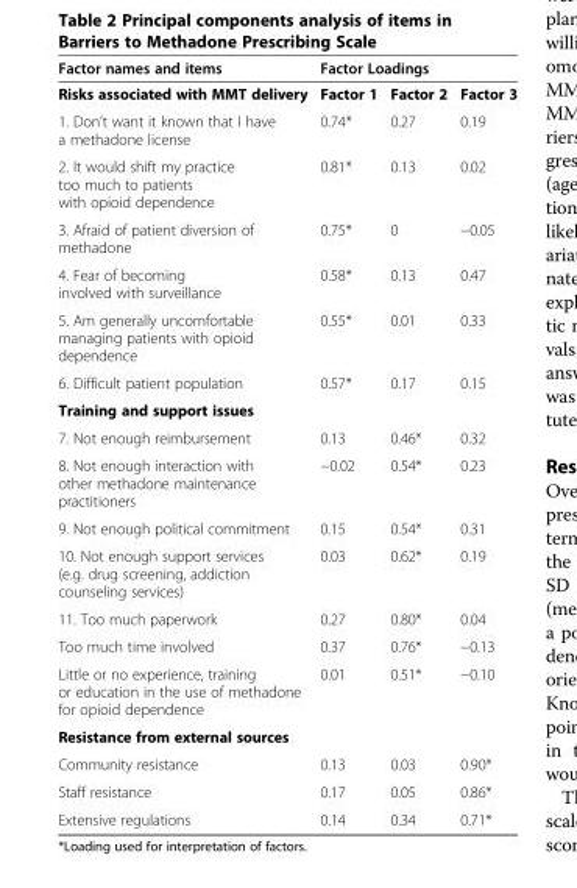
<table><thead><tr><td rowspan="2">Factor names and items Risks associated with MMT delivery</td><td colspan="3">Factor Loadings</td></tr><tr><td>Factor 1</td><td>Factor 2</td><td>Factor 3</td></tr></thead><tbody><tr><td>1. Don’t want it known that I have a methadone license</td><td>0.74*</td><td>0.27</td><td>0.19</td></tr><tr><td>2. It would shift my practice too much to patients with opioid dependence</td><td>0.81*</td><td>0.13</td><td>0.02</td></tr><tr><td>3. Afraid of patient diversion of methadone</td><td>0.75*</td><td>0</td><td>−0.05</td></tr><tr><td>4. Fear of becoming involved with surveillance</td><td>0.58*</td><td>0.13</td><td>0.47</td></tr><tr><td>5. Am generally uncomfortable managing patients with opioid dependence</td><td>0.55*</td><td>0.01</td><td>0.33</td></tr><tr><td>6. Difficult patient population</td><td>0.57*</td><td>0.17</td><td>0.15</td></tr><tr><td colspan="4">Training and support issues</td></tr><tr><td>7. Not enough reimbursement</td><td>0.13</td><td>0.46*</td><td>0.32</td></tr><tr><td>8. Not enough interaction with other methadone maintenance practitioners</td><td>−0.02</td><td>0.54*</td><td>0.23</td></tr><tr><td>9. Not enough political commitment</td><td>0.15</td><td>0.54*</td><td>0.31</td></tr><tr><td>10. Not enough support services (e.g. drug screening, addiction counseling services)</td><td>0.03</td><td>0.62*</td><td>0.19</td></tr><tr><td>11. Too much paperwork</td><td>0.27</td><td>0.80*</td><td>0.04</td></tr><tr><td>Too much time involved</td><td>0.37</td><td>0.76*</td><td>−0.13</td></tr><tr><td>Little or no experience, training or education in the use of methadone for opioid dependence</td><td>0.01</td><td>0.51*</td><td>−0.10</td></tr><tr><td colspan="4">Resistance from external sources</td></tr><tr><td>Community resistance</td><td>0.13</td><td>0.03</td><td>0.90*</td></tr><tr><td>Staff resistance</td><td>0.17</td><td>0.05</td><td>0.86*</td></tr><tr><td>Extensive regulations</td><td>0.14</td><td>0.34</td><td>0.71*</td></tr></tbody></table>